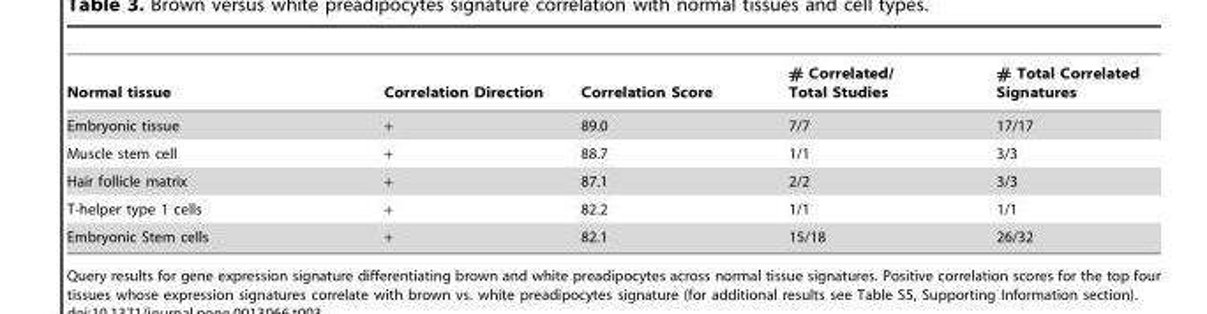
<table><thead><tr><td>Normal tissue</td><td>Correlation Direction</td><td>Correlation Score</td><td># Correlated/ Total Studies</td><td># Total Correlated Signatures</td></tr></thead><tbody><tr><td>Embryonic tissue</td><td>+</td><td>89.0</td><td>7/7</td><td>17/17</td></tr><tr><td>Muscle stem cell</td><td>+</td><td>88.7</td><td>1/1</td><td>3/3</td></tr><tr><td>Hair follicle matrix</td><td>+</td><td>87.1</td><td>2/2</td><td>3/3</td></tr><tr><td>T-helper type 1 cells</td><td>+</td><td>82.2</td><td>1/1</td><td>1/1</td></tr><tr><td>Embryonic Stem cells</td><td>+</td><td>82.1</td><td>15/18</td><td>26/32</td></tr></tbody></table>